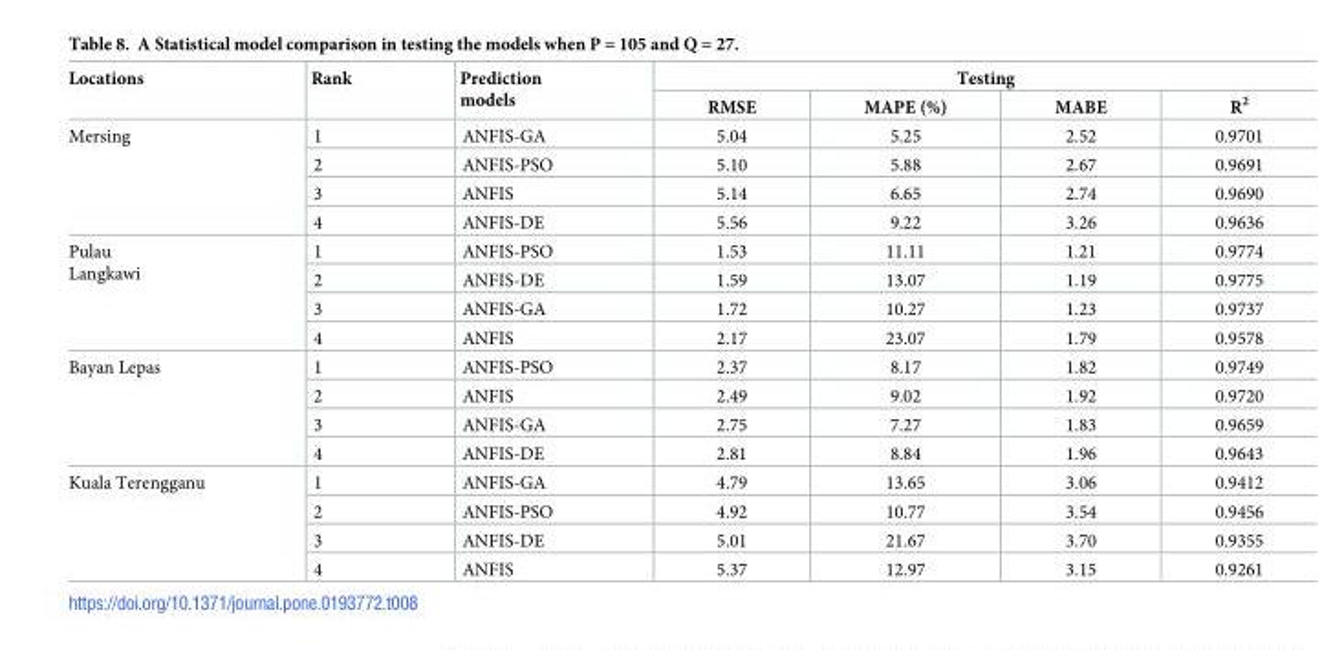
<table><thead><tr><td rowspan="2">Locations</td><td rowspan="2">Rank</td><td rowspan="2">Prediction models</td><td colspan="4">Testing</td></tr><tr><td>RMSE</td><td>MAPE (%)</td><td>MABE</td><td>R<sup>2</sup></td></tr></thead><tbody><tr><td rowspan="4">Mersing</td><td>1</td><td>ANFIS-GA</td><td>5.04</td><td>5.25</td><td>2.52</td><td>0.9701</td></tr><tr><td>2</td><td>ANFIS-PSO</td><td>5.10</td><td>5.88</td><td>2.67</td><td>0.9691</td></tr><tr><td>3</td><td>ANFIS</td><td>5.14</td><td>6.65</td><td>2.74</td><td>0.9690</td></tr><tr><td>4</td><td>ANFIS-DE</td><td>5.56</td><td>9.22</td><td>3.26</td><td>0.9636</td></tr><tr><td rowspan="4">Pulau Langkawi</td><td>1</td><td>ANFIS-PSO</td><td>1.53</td><td>11.11</td><td>1.21</td><td>0.9774</td></tr><tr><td>2</td><td>ANFIS-DE</td><td>1.59</td><td>13.07</td><td>1.19</td><td>0.9775</td></tr><tr><td>3</td><td>ANFIS-GA</td><td>1.72</td><td>10.27</td><td>1.23</td><td>0.9737</td></tr><tr><td>4</td><td>ANFIS</td><td>2.17</td><td>23.07</td><td>1.79</td><td>0.9578</td></tr><tr><td rowspan="4">Bayan Lepas</td><td>1</td><td>ANFIS-PSO</td><td>2.37</td><td>8.17</td><td>1.82</td><td>0.9749</td></tr><tr><td>2</td><td>ANFIS</td><td>2.49</td><td>9.02</td><td>1.92</td><td>0.9720</td></tr><tr><td>3</td><td>ANFIS-GA</td><td>2.75</td><td>7.27</td><td>1.83</td><td>0.9659</td></tr><tr><td>4</td><td>ANFIS-DE</td><td>2.81</td><td>8.84</td><td>1.96</td><td>0.9643</td></tr><tr><td rowspan="4">Kuala Terengganu</td><td>1</td><td>ANFIS-GA</td><td>4.79</td><td>13.65</td><td>3.06</td><td>0.9412</td></tr><tr><td>2</td><td>ANFIS-PSO</td><td>4.92</td><td>10.77</td><td>3.54</td><td>0.9456</td></tr><tr><td>3</td><td>ANFIS-DE</td><td>5.01</td><td>21.67</td><td>3.70</td><td>0.9355</td></tr><tr><td>4</td><td>ANFIS</td><td>5.37</td><td>12.97</td><td>3.15</td><td>0.9261</td></tr></tbody></table>